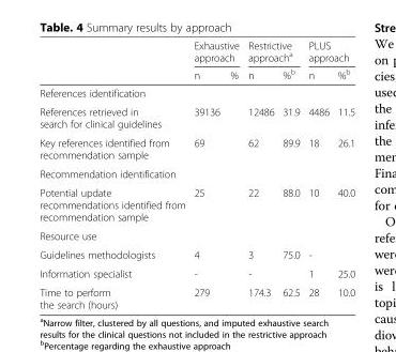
<table><thead><tr><td rowspan="2"></td><td colspan="2">Exhaustive approach</td><td colspan="2">Restrictive approach<sup>a</sup></td><td colspan="2">PLUS approach</td></tr><tr><td>n</td><td>%</td><td>n</td><td>%<sup>b</sup></td><td>n</td><td>%<sup>b</sup></td></tr></thead><tbody><tr><td colspan="7">References identification</td></tr><tr><td>References retrieved in search for clinical guidelines</td><td>39136</td><td></td><td>12486</td><td>31.9</td><td>4486</td><td>11.5</td></tr><tr><td>Key references identified from recommendation sample</td><td>69</td><td></td><td>62</td><td>89.9</td><td>18</td><td>26.1</td></tr><tr><td colspan="7">Recommendation identification</td></tr><tr><td>Potential update recommendations identified from recommendation sample</td><td>25</td><td></td><td>22</td><td>88.0</td><td>10</td><td>40.0</td></tr><tr><td colspan="7">Resource use</td></tr><tr><td>Guidelines methodologists</td><td>4</td><td></td><td>3</td><td>75.0</td><td>-</td><td></td></tr><tr><td>Information specialist</td><td>-</td><td></td><td>-</td><td></td><td>1</td><td>25.0</td></tr><tr><td>Time to perform the search (hours)</td><td>279</td><td></td><td>174.3</td><td>62.5</td><td>28</td><td>10.0</td></tr></tbody></table>